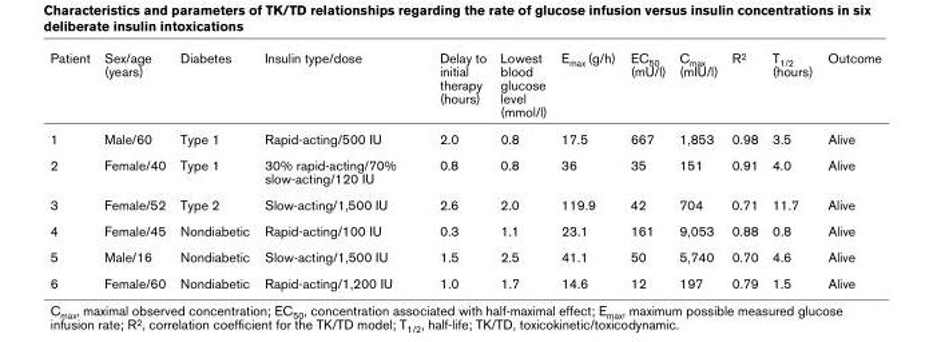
<table><thead><tr><td>Patient</td><td>Sex/age (years)</td><td>Diabetes</td><td>Insulin type/dose</td><td>Delay to initial therapy (hours)</td><td>Lowest blood glucose level (mmol/l)</td><td>E<sub>max</sub> (g/h)</td><td>EC<sub>50</sub> (mU/l)</td><td>C<sub>max</sub> (mIU/l)</td><td>R<sup>2</sup></td><td>T<sub>1/2</sub> (hours)</td><td>Outcome</td></tr></thead><tbody><tr><td>1</td><td>Male/60</td><td>Type 1</td><td>Rapid-acting/500 IU</td><td>2.0</td><td>0.8</td><td>17.5</td><td>667</td><td>1,853</td><td>0.98</td><td>3.5</td><td>Alive</td></tr><tr><td>2</td><td>Female/40</td><td>Type 1</td><td>30% rapid-acting/70% slow-acting/120 IU</td><td>0.8</td><td>0.8</td><td>36</td><td>35</td><td>151</td><td>0.91</td><td>4.0</td><td>Alive</td></tr><tr><td>3</td><td>Female/52</td><td>Type 2</td><td>Slow-acting/1,500 IU</td><td>2.6</td><td>2.0</td><td>119.9</td><td>42</td><td>704</td><td>0.71</td><td>11.7</td><td>Alive</td></tr><tr><td>4</td><td>Female/45</td><td>Nondiabetic</td><td>Rapid-acting/100 IU</td><td>0.3</td><td>1.1</td><td>23.1</td><td>161</td><td>9,053</td><td>0.88</td><td>0.8</td><td>Alive</td></tr><tr><td>5</td><td>Male/16</td><td>Nondiabetic</td><td>Slow-acting/1,500 IU</td><td>1.5</td><td>2.5</td><td>41.1</td><td>50</td><td>5,740</td><td>0.70</td><td>4.6</td><td>Alive</td></tr><tr><td>6</td><td>Female/60</td><td>Nondiabetic</td><td>Rapid-acting/1,200 IU</td><td>1.0</td><td>1.7</td><td>14.6</td><td>12</td><td>197</td><td>0.79</td><td>1.5</td><td>Alive</td></tr></tbody></table>